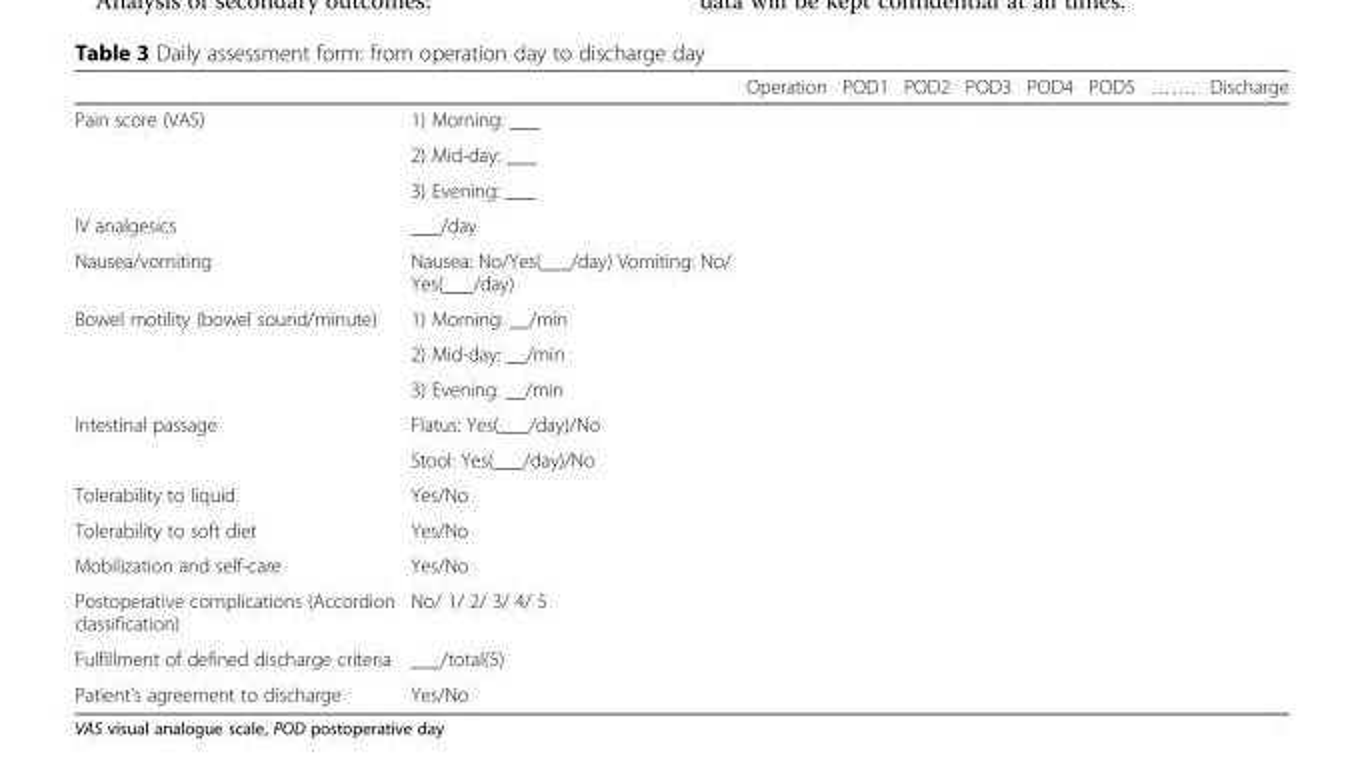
<table><thead><tr><td></td><td></td><td>Operation</td><td>POD1</td><td>POD2</td><td>POD3</td><td>POD4</td><td>POD5</td><td>…….</td><td>Discharge</td></tr></thead><tbody><tr><td rowspan="3">Pain score (VAS)</td><td>1) Morning: ___</td><td rowspan="3"></td><td rowspan="3"></td><td rowspan="3"></td><td rowspan="3"></td><td rowspan="3"></td><td rowspan="3"></td><td rowspan="3"></td><td rowspan="3"></td></tr><tr><td>2) Mid-day: ___</td></tr><tr><td>3) Evening: ___</td></tr><tr><td>IV analgesics</td><td>___/day</td><td></td><td></td><td></td><td></td><td></td><td></td><td></td><td></td></tr><tr><td>Nausea/vomiting</td><td>Nausea: No/Yes(___/day) Vomiting: No/ Yes(___/day)</td><td></td><td></td><td></td><td></td><td></td><td></td><td></td><td></td></tr><tr><td rowspan="3">Bowel motility (bowel sound/minute)</td><td>1) Morning: __/min</td><td rowspan="3"></td><td rowspan="3"></td><td rowspan="3"></td><td rowspan="3"></td><td rowspan="3"></td><td rowspan="3"></td><td rowspan="3"></td><td rowspan="3"></td></tr><tr><td>2) Mid-day: __/min</td></tr><tr><td>3) Evening: __/min</td></tr><tr><td rowspan="2">Intestinal passage</td><td>Flatus: Yes(___/day)/No</td><td rowspan="2"></td><td rowspan="2"></td><td rowspan="2"></td><td rowspan="2"></td><td rowspan="2"></td><td rowspan="2"></td><td rowspan="2"></td><td rowspan="2"></td></tr><tr><td>Stool: Yes(___/day)/No</td></tr><tr><td>Tolerability to liquid</td><td>Yes/No</td><td></td><td></td><td></td><td></td><td></td><td></td><td></td><td></td></tr><tr><td>Tolerability to soft diet</td><td>Yes/No</td><td></td><td></td><td></td><td></td><td></td><td></td><td></td><td></td></tr><tr><td>Mobilization and self-care</td><td>Yes/No</td><td></td><td></td><td></td><td></td><td></td><td></td><td></td><td></td></tr><tr><td>Postoperative complications (Accordion classification)</td><td>No/ 1/ 2/ 3/ 4/ 5</td><td></td><td></td><td></td><td></td><td></td><td></td><td></td><td></td></tr><tr><td>Fulfillment of defined discharge criteria</td><td>___/total(5)</td><td></td><td></td><td></td><td></td><td></td><td></td><td></td><td></td></tr><tr><td>Patient’s agreement to discharge</td><td>Yes/No</td><td></td><td></td><td></td><td></td><td></td><td></td><td></td><td></td></tr></tbody></table>